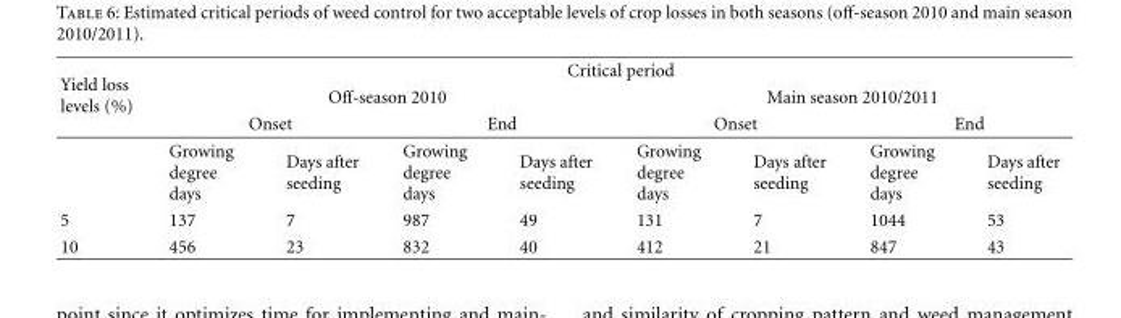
<table><thead><tr><td rowspan="4">Yield loss levels (%)</td><td colspan="8">Critical period</td></tr><tr><td colspan="4">Off-season 2010</td><td colspan="4">Main season 2010/2011</td></tr><tr><td colspan="2">Onset</td><td colspan="2">End</td><td colspan="2">Onset</td><td colspan="2">End</td></tr><tr><td>Growing degree days</td><td>Days after seeding</td><td>Growing degree days</td><td>Days after seeding</td><td>Growing degree days</td><td>Days after seeding</td><td>Growing degree days</td><td>Days after seeding</td></tr></thead><tbody><tr><td>5</td><td>137</td><td>7</td><td>987</td><td>49</td><td>131</td><td>7</td><td>1044</td><td>53</td></tr><tr><td>10</td><td>456</td><td>23</td><td>832</td><td>40</td><td>412</td><td>21</td><td>847</td><td>43</td></tr></tbody></table>